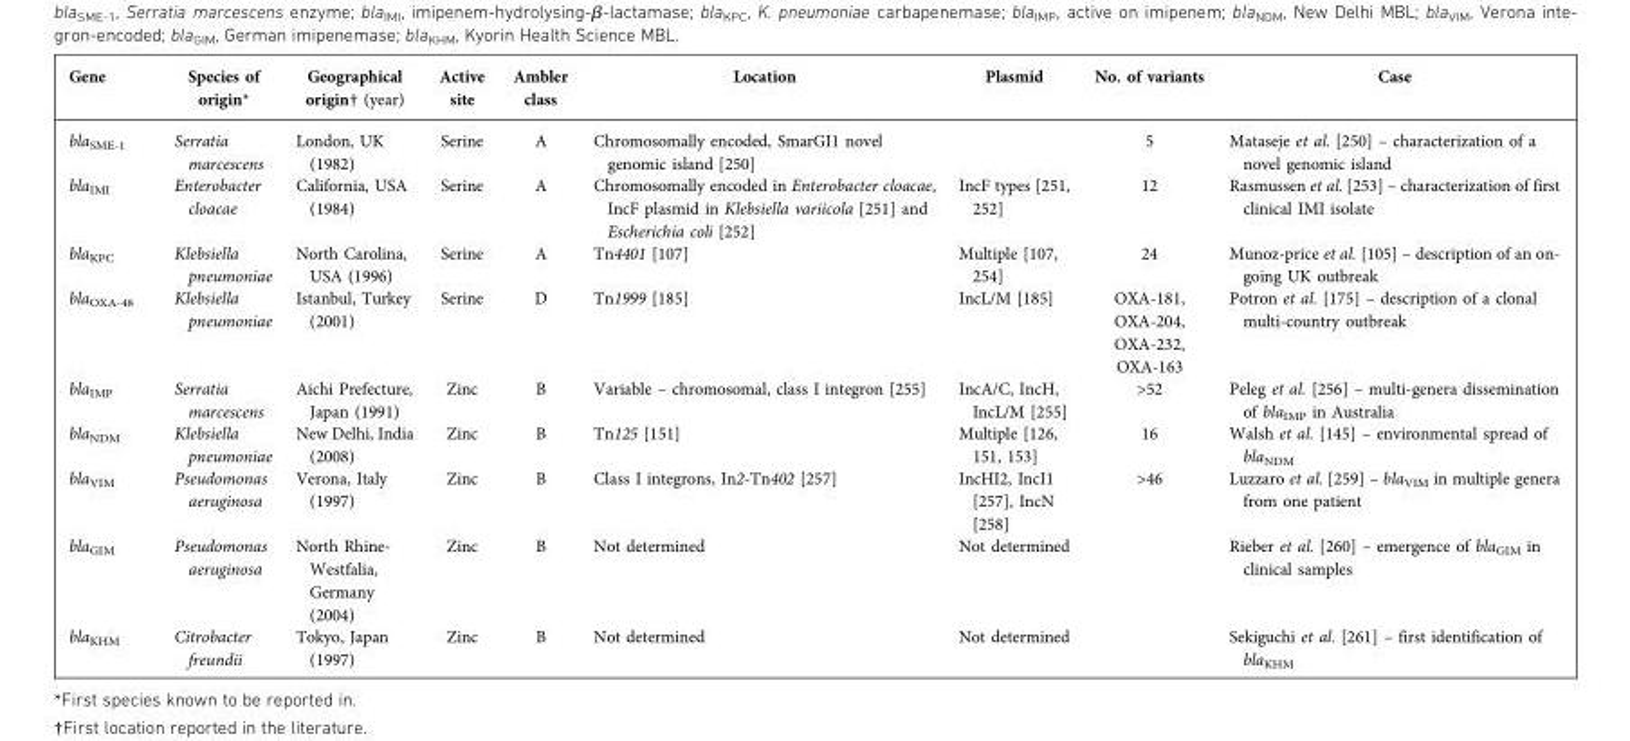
<table><thead><tr><td>Gene</td><td>Species of origin*</td><td>Geographical origin† (year)</td><td>Active site</td><td>Ambler class</td><td>Location</td><td>Plasmid</td><td>No. of variants</td><td>Case</td></tr></thead><tbody><tr><td>bla<sub>SME-1</sub></td><td>Serratia marcescens</td><td>London, UK (1982)</td><td>Serine</td><td>A</td><td>Chromosomally encoded, SmarGI1 novel genomic island [250]</td><td></td><td>5</td><td>Mataseje et al. [250] – characterization of a novel genomic island</td></tr><tr><td>bla<sub>IMI</sub></td><td>Enterobacter cloacae</td><td>California, USA (1984)</td><td>Serine</td><td>A</td><td>Chromosomally encoded in Enterobacter cloacae, IncF plasmid in Klebsiella variicola [251] and Escherichia coli [252]</td><td>IncF types [251, 252]</td><td>12</td><td>Rasmussen et al. [253] – characterization of first clinical IMI isolate</td></tr><tr><td>bla<sub>KPC</sub></td><td>Klebsiella pneumoniae</td><td>North Carolina, USA (1996)</td><td>Serine</td><td>A</td><td>Tn4401 [107]</td><td>Multiple [107, 254]</td><td>24</td><td>Munoz-price et al. [105] – description of an on- going UK outbreak</td></tr><tr><td>bla<sub>OXA-48</sub></td><td>Klebsiella pneumoniae</td><td>Istanbul, Turkey (2001)</td><td>Serine</td><td>D</td><td>Tn1999 [185]</td><td>IncL/M [185]</td><td>OXA-181, OXA-204, OXA-232, OXA-163</td><td>Potron et al. [175] – description of a clonal multi-country outbreak</td></tr><tr><td>bla<sub>IMP</sub></td><td>Serratia marcescens</td><td>Aichi Prefecture, Japan (1991)</td><td>Zinc</td><td>B</td><td>Variable – chromosomal, class I integron [255]</td><td>IncA/C, IncH, IncL/M [255]</td><td>&gt;52</td><td>Peleg et al. [256] – multi-genera dissemination of bla<sub>IMP</sub> in Australia</td></tr><tr><td>bla<sub>NDM</sub></td><td>Klebsiella pneumoniae</td><td>New Delhi, India (2008)</td><td>Zinc</td><td>B</td><td>Tn125 [151]</td><td>Multiple [126, 151, 153]</td><td>16</td><td>Walsh et al. [145] – environmental spread of bla<sub>NDM</sub></td></tr><tr><td>bla<sub>VIM</sub></td><td>Pseudomonas aeruginosa</td><td>Verona, Italy (1997)</td><td>Zinc</td><td>B</td><td>Class I integrons, In2-Tn402 [257]</td><td>IncHI2, IncI1 [257], IncN [258]</td><td>&gt;46</td><td>Luzzaro et al. [259] – bla<sub>VIM</sub> in multiple genera from one patient</td></tr><tr><td>bla<sub>GIM</sub></td><td>Pseudomonas aeruginosa</td><td>North Rhine- Westfalia, Germany (2004)</td><td>Zinc</td><td>B</td><td>Not determined</td><td>Not determined</td><td></td><td>Rieber et al. [260] – emergence of bla<sub>GIM</sub> in clinical samples</td></tr><tr><td>bla<sub>KHM</sub></td><td>Citrobacter freundii</td><td>Tokyo, Japan (1997)</td><td>Zinc</td><td>B</td><td>Not determined</td><td>Not determined</td><td></td><td>Sekiguchi et al. [261] – first identification of bla<sub>KHM</sub></td></tr></tbody></table>